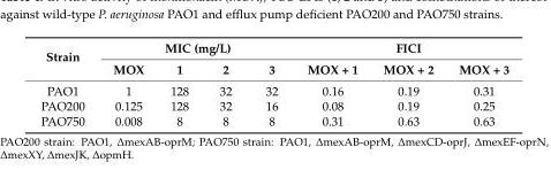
<table><thead><tr><td rowspan="2">Strain</td><td colspan="4">MIC (mg/L)</td><td colspan="3">FICI</td></tr><tr><td>MOX</td><td>1</td><td>2</td><td>3</td><td>MOX + 1</td><td>MOX + 2</td><td>MOX + 3</td></tr></thead><tbody><tr><td>PAO1</td><td>1</td><td>128</td><td>32</td><td>32</td><td>0.16</td><td>0.19</td><td>0.31</td></tr><tr><td>PAO200</td><td>0.125</td><td>128</td><td>32</td><td>16</td><td>0.08</td><td>0.19</td><td>0.25</td></tr><tr><td>PAO750</td><td>0.008</td><td>8</td><td>8</td><td>8</td><td>0.31</td><td>0.63</td><td>0.63</td></tr></tbody></table>